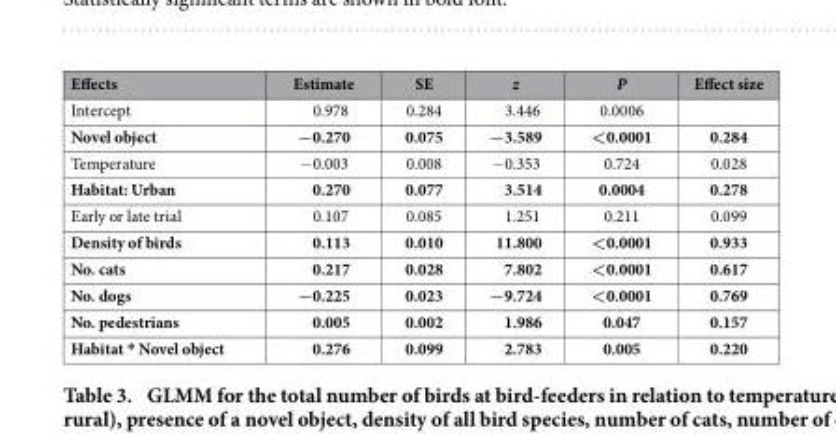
<table><thead><tr><td>Effects</td><td>Estimate</td><td>SE</td><td>z</td><td>P</td><td>Effect size</td></tr></thead><tbody><tr><td>Intercept</td><td>0.978</td><td>0.284</td><td>3.446</td><td>0.0006</td><td></td></tr><tr><td>Novel object</td><td>−0.270</td><td>0.075</td><td>−3.589</td><td>&lt;0.0001</td><td>0.284</td></tr><tr><td>Temperature</td><td>− 0.003</td><td>0.008</td><td>− 0.353</td><td>0.724</td><td>0.028</td></tr><tr><td>Habitat: Urban</td><td>0.270</td><td>0.077</td><td>3.514</td><td>0.0004</td><td>0.278</td></tr><tr><td>Early or late trial</td><td>0.107</td><td>0.085</td><td>1.251</td><td>0.211</td><td>0.099</td></tr><tr><td>Density of birds</td><td>0.113</td><td>0.010</td><td>11.800</td><td>&lt;0.0001</td><td>0.933</td></tr><tr><td>No. cats</td><td>0.217</td><td>0.028</td><td>7.802</td><td>&lt;0.0001</td><td>0.617</td></tr><tr><td>No. dogs</td><td>−0.225</td><td>0.023</td><td>−9.724</td><td>&lt;0.0001</td><td>0.769</td></tr><tr><td>No. pedestrians</td><td>0.005</td><td>0.002</td><td>1.986</td><td>0.047</td><td>0.157</td></tr><tr><td>Habitat * Novel object</td><td>0.276</td><td>0.099</td><td>2.783</td><td>0.005</td><td>0.220</td></tr></tbody></table>